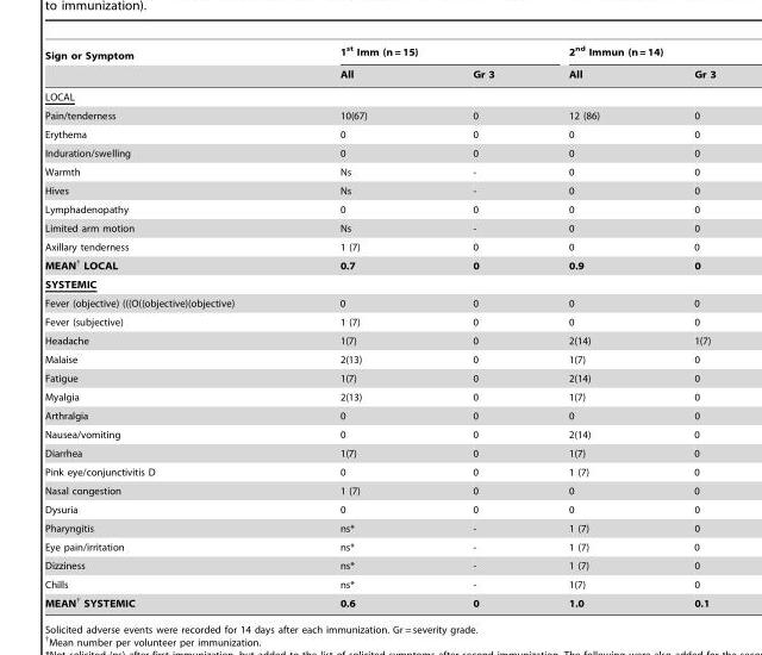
<table><thead><tr><td rowspan="2">Sign or Symptom</td><td colspan="2">1<sup>st</sup> Imm (n = 15)</td><td colspan="2">2<sup>nd</sup> Immun (n = 14)</td></tr><tr><td>All</td><td>Gr 3</td><td>All</td><td>Gr 3</td></tr></thead><tbody><tr><td colspan="5">LOCAL</td></tr><tr><td>Pain/tenderness</td><td>10(67)</td><td>0</td><td>12 (86)</td><td>0</td></tr><tr><td>Erythema</td><td>0</td><td>0</td><td>0</td><td>0</td></tr><tr><td>Induration/swelling</td><td>0</td><td>0</td><td>0</td><td>0</td></tr><tr><td>Warmth</td><td>Ns</td><td>-</td><td>0</td><td>0</td></tr><tr><td>Hives</td><td>Ns</td><td>-</td><td>0</td><td>0</td></tr><tr><td>Lymphadenopathy</td><td>0</td><td>0</td><td>0</td><td>0</td></tr><tr><td>Limited arm motion</td><td>Ns</td><td>-</td><td>0</td><td>0</td></tr><tr><td>Axillary tenderness</td><td>1 (7)</td><td>0</td><td>0</td><td>0</td></tr><tr><td>MEAN† LOCAL</td><td>0.7</td><td>0</td><td>0.9</td><td>0</td></tr><tr><td colspan="5">SYSTEMIC</td></tr><tr><td>Fever (objective) (((O((objective)(objective)</td><td>0</td><td>0</td><td>0</td><td>0</td></tr><tr><td>Fever (subjective)</td><td>1 (7)</td><td>0</td><td>0</td><td>0</td></tr><tr><td>Headache</td><td>1(7)</td><td>0</td><td>2(14)</td><td>1(7)</td></tr><tr><td>Malaise</td><td>2(13)</td><td>0</td><td>1(7)</td><td>0</td></tr><tr><td>Fatigue</td><td>1(7)</td><td>0</td><td>2(14)</td><td>0</td></tr><tr><td>Myalgia</td><td>2(13)</td><td>0</td><td>1(7)</td><td>0</td></tr><tr><td>Arthralgia</td><td>0</td><td>0</td><td>0</td><td>0</td></tr><tr><td>Nausea/vomiting</td><td>0</td><td>0</td><td>2(14)</td><td>0</td></tr><tr><td>Diarrhea</td><td>1(7)</td><td>0</td><td>1(7)</td><td>0</td></tr><tr><td>Pink eye/conjunctivitis D</td><td>0</td><td>0</td><td>1 (7)</td><td>0</td></tr><tr><td>Nasal congestion</td><td>1 (7)</td><td>0</td><td>0</td><td>0</td></tr><tr><td>Dysuria</td><td>0</td><td>0</td><td>0</td><td>0</td></tr><tr><td>Pharyngitis</td><td>ns*</td><td>-</td><td>1 (7)</td><td>0</td></tr><tr><td>Eye pain/irritation</td><td>ns*</td><td>-</td><td>1 (7)</td><td>0</td></tr><tr><td>Dizziness</td><td>ns*</td><td>-</td><td>1 (7)</td><td>0</td></tr><tr><td>Chills</td><td>ns*</td><td>-</td><td>1(7)</td><td>0</td></tr><tr><td>MEAN† SYSTEMIC</td><td>0.6</td><td>0</td><td>1.0</td><td>0.1</td></tr></tbody></table>